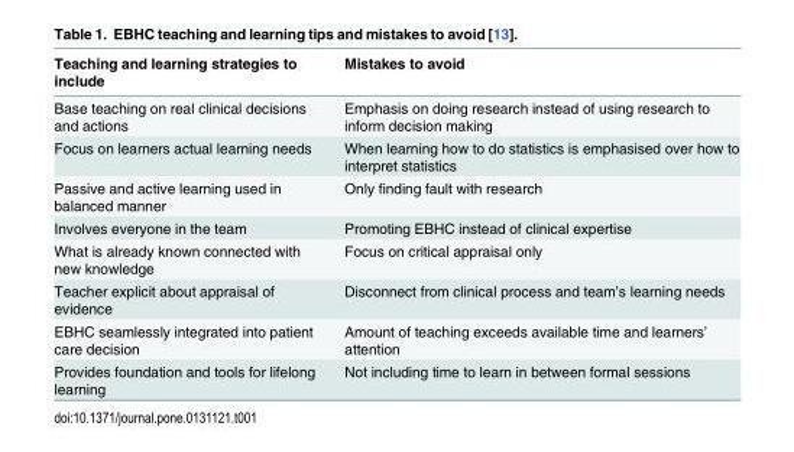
<table><thead><tr><td>Teaching and learning strategies to include</td><td>Mistakes to avoid</td></tr></thead><tbody><tr><td>Base teaching on real clinical decisions and actions</td><td>Emphasis on doing research instead of using research to inform decision making</td></tr><tr><td>Focus on learners actual learning needs</td><td>When learning how to do statistics is emphasised over how to interpret statistics</td></tr><tr><td>Passive and active learning used in balanced manner</td><td>Only finding fault with research</td></tr><tr><td>Involves everyone in the team</td><td>Promoting EBHC instead of clinical expertise</td></tr><tr><td>What is already known connected with new knowledge</td><td>Focus on critical appraisal only</td></tr><tr><td>Teacher explicit about appraisal of evidence</td><td>Disconnect from clinical process and team’s learning needs</td></tr><tr><td>EBHC seamlessly integrated into patient care decision</td><td>Amount of teaching exceeds available time and learners’ attention</td></tr><tr><td>Provides foundation and tools for lifelong learning</td><td>Not including time to learn in between formal sessions</td></tr></tbody></table>